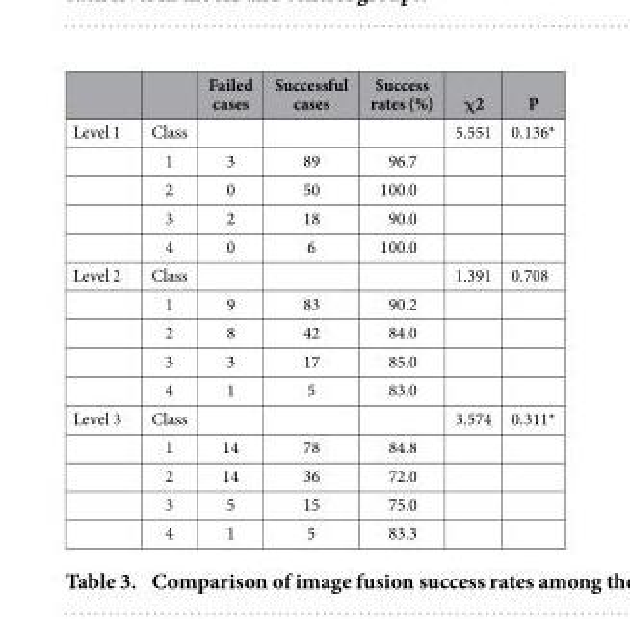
<table><thead><tr><td></td><td></td><td>Failed cases</td><td>Successful cases</td><td>Success rates (%)</td><td>χ2</td><td>P</td></tr></thead><tbody><tr><td rowspan="5">Level 1</td><td>Class</td><td></td><td></td><td></td><td>5.551</td><td>0.136*</td></tr><tr><td>1</td><td>3</td><td>89</td><td>96.7</td><td></td><td></td></tr><tr><td>2</td><td>0</td><td>50</td><td>100.0</td><td></td><td></td></tr><tr><td>3</td><td>2</td><td>18</td><td>90.0</td><td></td><td></td></tr><tr><td>4</td><td>0</td><td>6</td><td>100.0</td><td></td><td></td></tr><tr><td rowspan="5">Level 2</td><td>Class</td><td></td><td></td><td></td><td>1.391</td><td>0.708</td></tr><tr><td>1</td><td>9</td><td>83</td><td>90.2</td><td></td><td></td></tr><tr><td>2</td><td>8</td><td>42</td><td>84.0</td><td></td><td></td></tr><tr><td>3</td><td>3</td><td>17</td><td>85.0</td><td></td><td></td></tr><tr><td>4</td><td>1</td><td>5</td><td>83.0</td><td></td><td></td></tr><tr><td rowspan="5">Level 3</td><td>Class</td><td></td><td></td><td></td><td>3.574</td><td>0.311*</td></tr><tr><td>1</td><td>14</td><td>78</td><td>84.8</td><td></td><td></td></tr><tr><td>2</td><td>14</td><td>36</td><td>72.0</td><td></td><td></td></tr><tr><td>3</td><td>5</td><td>15</td><td>75.0</td><td></td><td></td></tr><tr><td>4</td><td>1</td><td>5</td><td>83.3</td><td></td><td></td></tr></tbody></table>